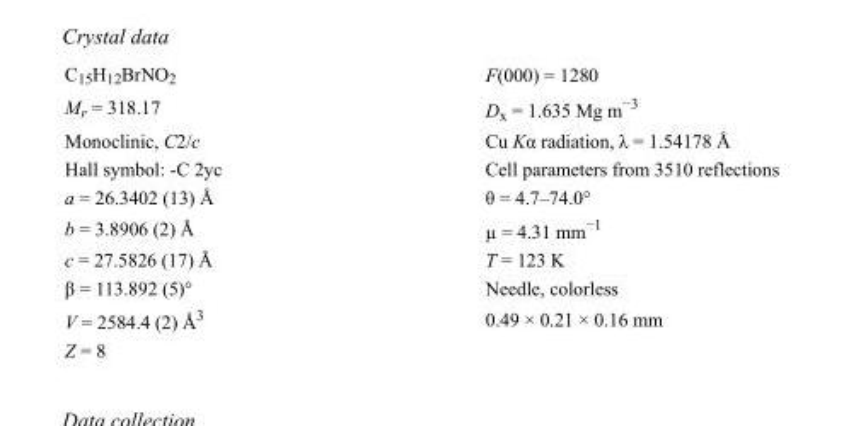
<table><tbody><tr><td>C<sub>15</sub>H<sub>12</sub>BrNO<sub>2</sub></td><td>F(000) = 1280</td></tr><tr><td>M<sub>r</sub> = 318.17</td><td>D<sub>x</sub> = 1.635 Mg m<sup>−3</sup></td></tr><tr><td>Monoclinic, C2/c</td><td>Cu Kα radiation, λ = 1.54178 Å</td></tr><tr><td>Hall symbol: -C 2yc</td><td>Cell parameters from 3510 reflections</td></tr><tr><td>a = 26.3402 (13) Å</td><td>θ = 4.7–74.0°</td></tr><tr><td>b = 3.8906 (2) Å</td><td>µ = 4.31 mm<sup>−1</sup></td></tr><tr><td>c = 27.5826 (17) Å</td><td>T = 123 K</td></tr><tr><td>β = 113.892 (5)°</td><td>Needle, colorless</td></tr><tr><td>V = 2584.4 (2) Å<sup>3</sup></td><td>0.49 × 0.21 × 0.16 mm</td></tr><tr><td>Z = 8</td><td></td></tr></tbody></table>